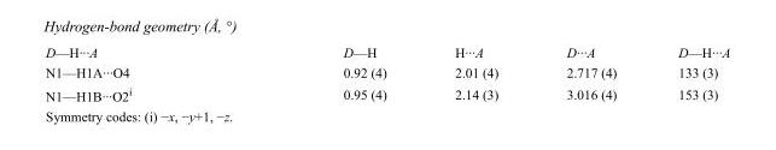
<table><tbody><tr><td>D—H···A</td><td>D—H</td><td>H···A</td><td>D···A</td><td>D—H···A</td></tr><tr><td>N1—H1A···O4</td><td>0.92 (4)</td><td>2.01 (4)</td><td>2.717 (4)</td><td>133 (3)</td></tr><tr><td>N1—H1B···O2<sup>i</sup></td><td>0.95 (4)</td><td>2.14 (3)</td><td>3.016 (4)</td><td>153 (3)</td></tr></tbody></table>